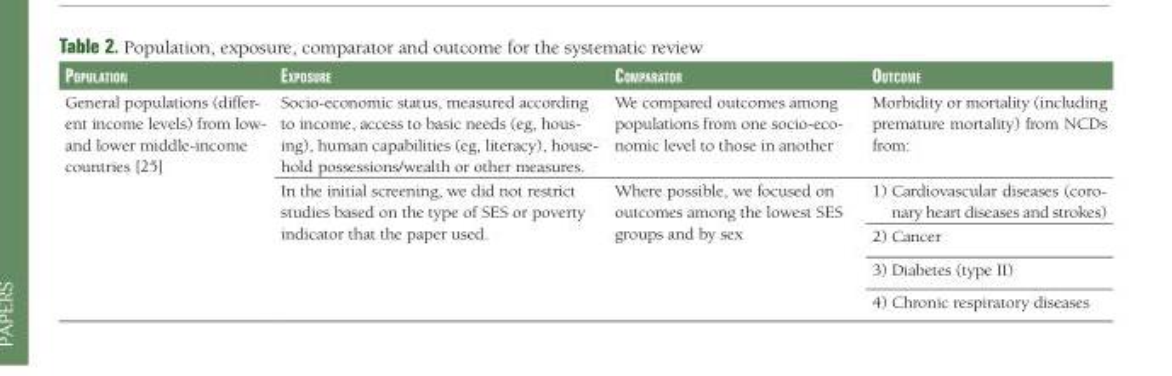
<table><thead><tr><td>PoPulation</td><td>exPoSure</td><td>comParator</td><td>outcome</td></tr></thead><tbody><tr><td rowspan="5">General populations (differ- ent income levels) from low- and lower middle-income countries [25]</td><td>Socio-economic status, measured according to income, access to basic needs (eg, hous- ing), human capabilities (eg, literacy), house- hold possessions/wealth or other measures.</td><td>We compared outcomes among populations from one socio-eco- nomic level to those in another</td><td>Morbidity or mortality (including premature mortality) from NCDs from:</td></tr><tr><td rowspan="4">In the initial screening, we did not restrict studies based on the type of SES or poverty indicator that the paper used.</td><td rowspan="4">Where possible, we focused on outcomes among the lowest SES groups and by sex</td><td>1) Cardiovascular diseases (coro- nary heart diseases and strokes)</td></tr><tr><td>2) Cancer</td></tr><tr><td>3) Diabetes (type II)</td></tr><tr><td>4) Chronic respiratory diseases</td></tr></tbody></table>